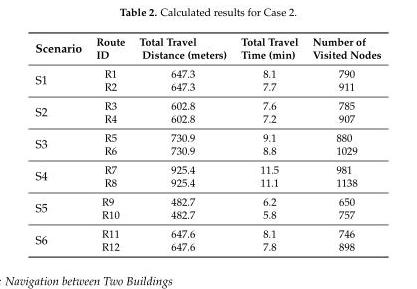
<table><thead><tr><td>Scenario</td><td>Route ID</td><td>Total Travel Distance (meters)</td><td>Total Travel Time (min)</td><td>Number of Visited Nodes</td></tr></thead><tbody><tr><td>S1</td><td>R1 R2</td><td>647.3 647.3</td><td>8.1 7.7</td><td>790 911</td></tr><tr><td>S2</td><td>R3 R4</td><td>602.8 602.8</td><td>7.6 7.2</td><td>785 907</td></tr><tr><td>S3</td><td>R5 R6</td><td>730.9 730.9</td><td>9.1 8.8</td><td>880 1029</td></tr><tr><td>S4</td><td>R7 R8</td><td>925.4 925.4</td><td>11.5 11.1</td><td>981 1138</td></tr><tr><td>S5</td><td>R9 R10</td><td>482.7 482.7</td><td>6.2 5.8</td><td>650 757</td></tr><tr><td>S6</td><td>R11 R12</td><td>647.6 647.6</td><td>8.1 7.8</td><td>746 898</td></tr></tbody></table>